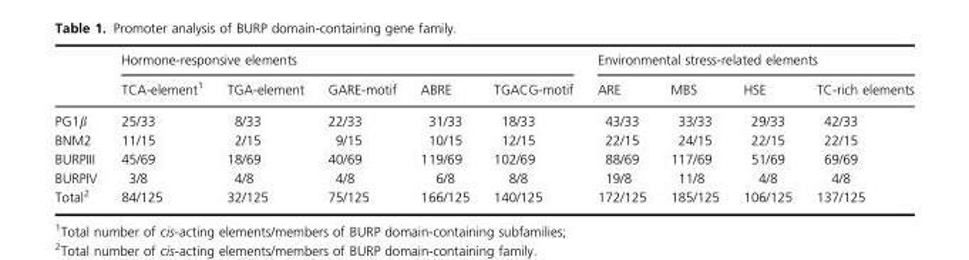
<table><thead><tr><td rowspan="2"></td><td colspan="5">Hormone-responsive elements</td><td colspan="4">Environmental stress-related elements</td></tr><tr><td>TCA-element1</td><td>TGA-element</td><td>GARE-motif</td><td>ABRE</td><td>TGACG-motif</td><td>ARE</td><td>MBS</td><td>HSE</td><td>TC-rich elements</td></tr></thead><tbody><tr><td>PG1β</td><td>25/33</td><td>8/33</td><td>22/33</td><td>31/33</td><td>18/33</td><td>43/33</td><td>33/33</td><td>29/33</td><td>42/33</td></tr><tr><td>BNM2</td><td>11/15</td><td>2/15</td><td>9/15</td><td>10/15</td><td>12/15</td><td>22/15</td><td>24/15</td><td>22/15</td><td>22/15</td></tr><tr><td>BURPIII</td><td>45/69</td><td>18/69</td><td>40/69</td><td>119/69</td><td>102/69</td><td>88/69</td><td>117/69</td><td>51/69</td><td>69/69</td></tr><tr><td>BURPIV</td><td>3/8</td><td>4/8</td><td>4/8</td><td>6/8</td><td>8/8</td><td>19/8</td><td>11/8</td><td>4/8</td><td>4/8</td></tr><tr><td>Total2</td><td>84/125</td><td>32/125</td><td>75/125</td><td>166/125</td><td>140/125</td><td>172/125</td><td>185/125</td><td>106/125</td><td>137/125</td></tr></tbody></table>